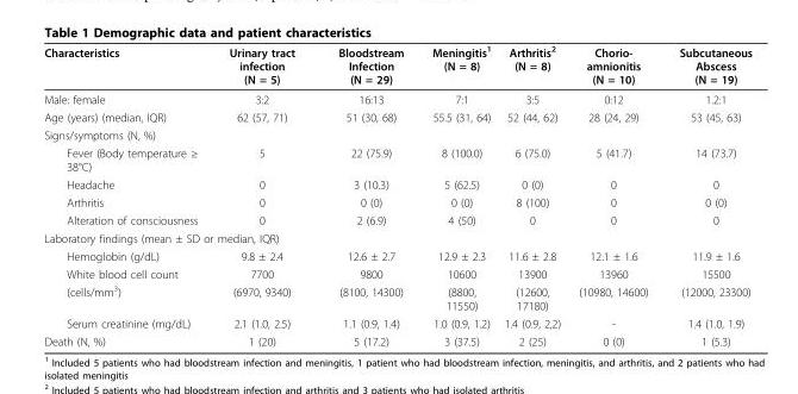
<table><thead><tr><td>Characteristics</td><td>Urinary tract infection (N = 5)</td><td>Bloodstream Infection (N = 29)</td><td>Meningitis<sup>1</sup> (N = 8)</td><td>Arthritis<sup>2</sup> (N = 8)</td><td>Chorio- amnionitis (N = 10)</td><td>Subcutaneous Abscess (N = 19)</td></tr></thead><tbody><tr><td>Male: female</td><td>3:2</td><td>16:13</td><td>7:1</td><td>3:5</td><td>0:12</td><td>1.2:1</td></tr><tr><td>Age (years) (median, IQR)</td><td>62 (57, 71)</td><td>51 (30, 68)</td><td>55.5 (31, 64)</td><td>52 (44, 62)</td><td>28 (24, 29)</td><td>53 (45, 63)</td></tr><tr><td colspan="7">Signs/symptoms (N, %)</td></tr><tr><td>Fever (Body temperature ≥ 38°C)</td><td>5</td><td>22 (75.9)</td><td>8 (100.0)</td><td>6 (75.0)</td><td>5 (41.7)</td><td>14 (73.7)</td></tr><tr><td>Headache</td><td>0</td><td>3 (10.3)</td><td>5 (62.5)</td><td>0 (0)</td><td>0</td><td>0</td></tr><tr><td>Arthritis</td><td>0</td><td>0 (0)</td><td>0 (0)</td><td>8 (100)</td><td>0</td><td>0 (0)</td></tr><tr><td>Alteration of consciousness</td><td>0</td><td>2 (6.9)</td><td>4 (50)</td><td>0</td><td>0</td><td>0</td></tr><tr><td colspan="7">Laboratory findings (mean ± SD or median, IQR)</td></tr><tr><td>Hemoglobin (g/dL)</td><td>9.8 ± 2.4</td><td>12.6 ± 2.7</td><td>12.9 ± 2.3</td><td>11.6 ± 2.8</td><td>12.1 ± 1.6</td><td>11.9 ± 1.6</td></tr><tr><td>White blood cell count</td><td>7700</td><td>9800</td><td>10600</td><td>13900</td><td>13960</td><td>15500</td></tr><tr><td>(cells/mm<sup>3</sup>)</td><td>(6970, 9340)</td><td>(8100, 14300)</td><td>(8800, 11550)</td><td>(12600, 17180)</td><td>(10980, 14600)</td><td>(12000, 23300)</td></tr><tr><td>Serum creatinine (mg/dL)</td><td>2.1 (1.0, 2.5)</td><td>1.1 (0.9, 1.4)</td><td>1.0 (0.9, 1.2)</td><td>1.4 (0.9, 2,2)</td><td>-</td><td>1.4 (1.0, 1.9)</td></tr><tr><td>Death (N, %)</td><td>1 (20)</td><td>5 (17.2)</td><td>3 (37.5)</td><td>2 (25)</td><td>0 (0)</td><td>1 (5.3)</td></tr></tbody></table>